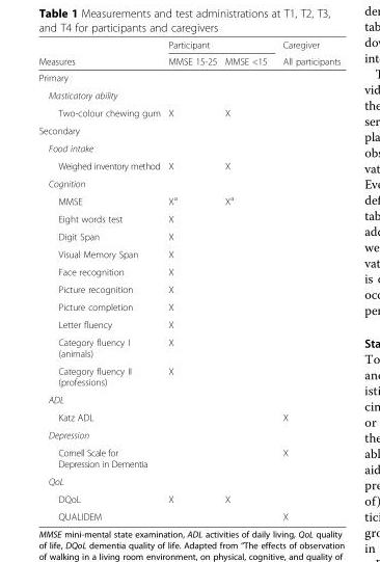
<table><thead><tr><td rowspan="2">Measures</td><td colspan="2">Participant</td><td rowspan="2">Caregiver All participants</td></tr><tr><td>MMSE 15-25</td><td>MMSE &lt;15</td></tr></thead><tbody><tr><td colspan="4">Primary</td></tr><tr><td colspan="4">Masticatory ability</td></tr><tr><td>Two-colour chewing gum</td><td>X</td><td>X</td><td></td></tr><tr><td colspan="4">Secondary</td></tr><tr><td colspan="4">Food intake</td></tr><tr><td>Weighed inventory method</td><td>X</td><td>X</td><td></td></tr><tr><td colspan="4">Cognition</td></tr><tr><td>MMSE</td><td>X<sup>a</sup></td><td>X<sup>a</sup></td><td></td></tr><tr><td>Eight words test</td><td>X</td><td></td><td></td></tr><tr><td>Digit Span</td><td>X</td><td></td><td></td></tr><tr><td>Visual Memory Span</td><td>X</td><td></td><td></td></tr><tr><td>Face recognition</td><td>X</td><td></td><td></td></tr><tr><td>Picture recognition</td><td>X</td><td></td><td></td></tr><tr><td>Picture completion</td><td>X</td><td></td><td></td></tr><tr><td>Letter fluency</td><td>X</td><td></td><td></td></tr><tr><td>Category fluency I (animals)</td><td>X</td><td></td><td></td></tr><tr><td>Category fluency II (professions)</td><td>X</td><td></td><td></td></tr><tr><td colspan="4">ADL</td></tr><tr><td>Katz ADL</td><td></td><td></td><td>X</td></tr><tr><td colspan="4">Depression</td></tr><tr><td>Cornell Scale for Depression in Dementia</td><td></td><td></td><td>X</td></tr><tr><td colspan="4">QoL</td></tr><tr><td>DQoL</td><td>X</td><td>X</td><td></td></tr><tr><td>QUALIDEM</td><td></td><td></td><td>X</td></tr></tbody></table>